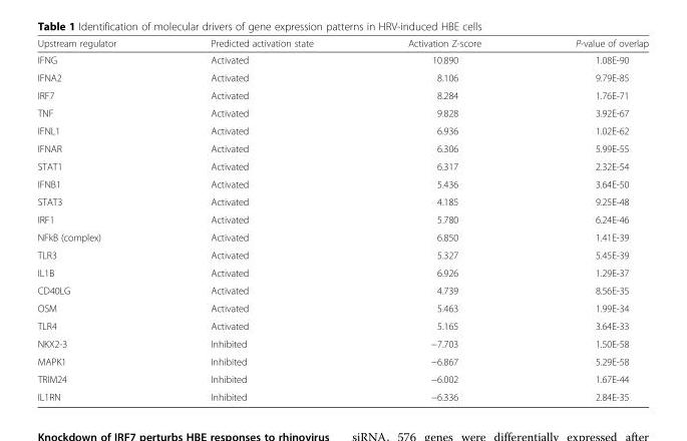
<table><thead><tr><td>Upstream regulator</td><td>Predicted activation state</td><td>Activation Z-score</td><td>P-value of overlap</td></tr></thead><tbody><tr><td>IFNG</td><td>Activated</td><td>10.890</td><td>1.08E-90</td></tr><tr><td>IFNA2</td><td>Activated</td><td>8.106</td><td>9.79E-85</td></tr><tr><td>IRF7</td><td>Activated</td><td>8.284</td><td>1.76E-71</td></tr><tr><td>TNF</td><td>Activated</td><td>9.828</td><td>3.92E-67</td></tr><tr><td>IFNL1</td><td>Activated</td><td>6.936</td><td>1.02E-62</td></tr><tr><td>IFNAR</td><td>Activated</td><td>6.306</td><td>5.99E-55</td></tr><tr><td>STAT1</td><td>Activated</td><td>6.317</td><td>2.32E-54</td></tr><tr><td>IFNB1</td><td>Activated</td><td>5.436</td><td>3.64E-50</td></tr><tr><td>STAT3</td><td>Activated</td><td>4.185</td><td>9.25E-48</td></tr><tr><td>IRF1</td><td>Activated</td><td>5.780</td><td>6.24E-46</td></tr><tr><td>NFkB (complex)</td><td>Activated</td><td>6.850</td><td>1.41E-39</td></tr><tr><td>TLR3</td><td>Activated</td><td>5.327</td><td>5.45E-39</td></tr><tr><td>IL1B</td><td>Activated</td><td>6.926</td><td>1.29E-37</td></tr><tr><td>CD40LG</td><td>Activated</td><td>4.739</td><td>8.56E-35</td></tr><tr><td>OSM</td><td>Activated</td><td>5.463</td><td>1.99E-34</td></tr><tr><td>TLR4</td><td>Activated</td><td>5.165</td><td>3.64E-33</td></tr><tr><td>NKX2-3</td><td>Inhibited</td><td>−7.703</td><td>1.50E-58</td></tr><tr><td>MAPK1</td><td>Inhibited</td><td>−6.867</td><td>5.29E-58</td></tr><tr><td>TRIM24</td><td>Inhibited</td><td>−6.002</td><td>1.67E-44</td></tr><tr><td>IL1RN</td><td>Inhibited</td><td>−6.336</td><td>2.84E-35</td></tr></tbody></table>